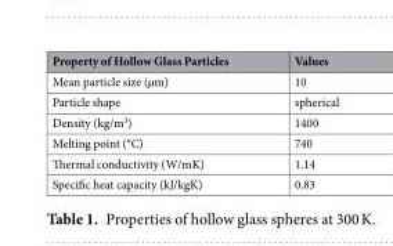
<table><thead><tr><td>Property of Hollow Glass Particles</td><td>Values</td></tr></thead><tbody><tr><td>Mean particle size (µm)</td><td>10</td></tr><tr><td>Particle shape</td><td>spherical</td></tr><tr><td>Density (kg/m<sup>3</sup>)</td><td>1400</td></tr><tr><td>Melting point (°C)</td><td>740</td></tr><tr><td>Thermal conductivity (W/mK)</td><td>1.14</td></tr><tr><td>Specific heat capacity (kJ/kgK)</td><td>0.83</td></tr></tbody></table>